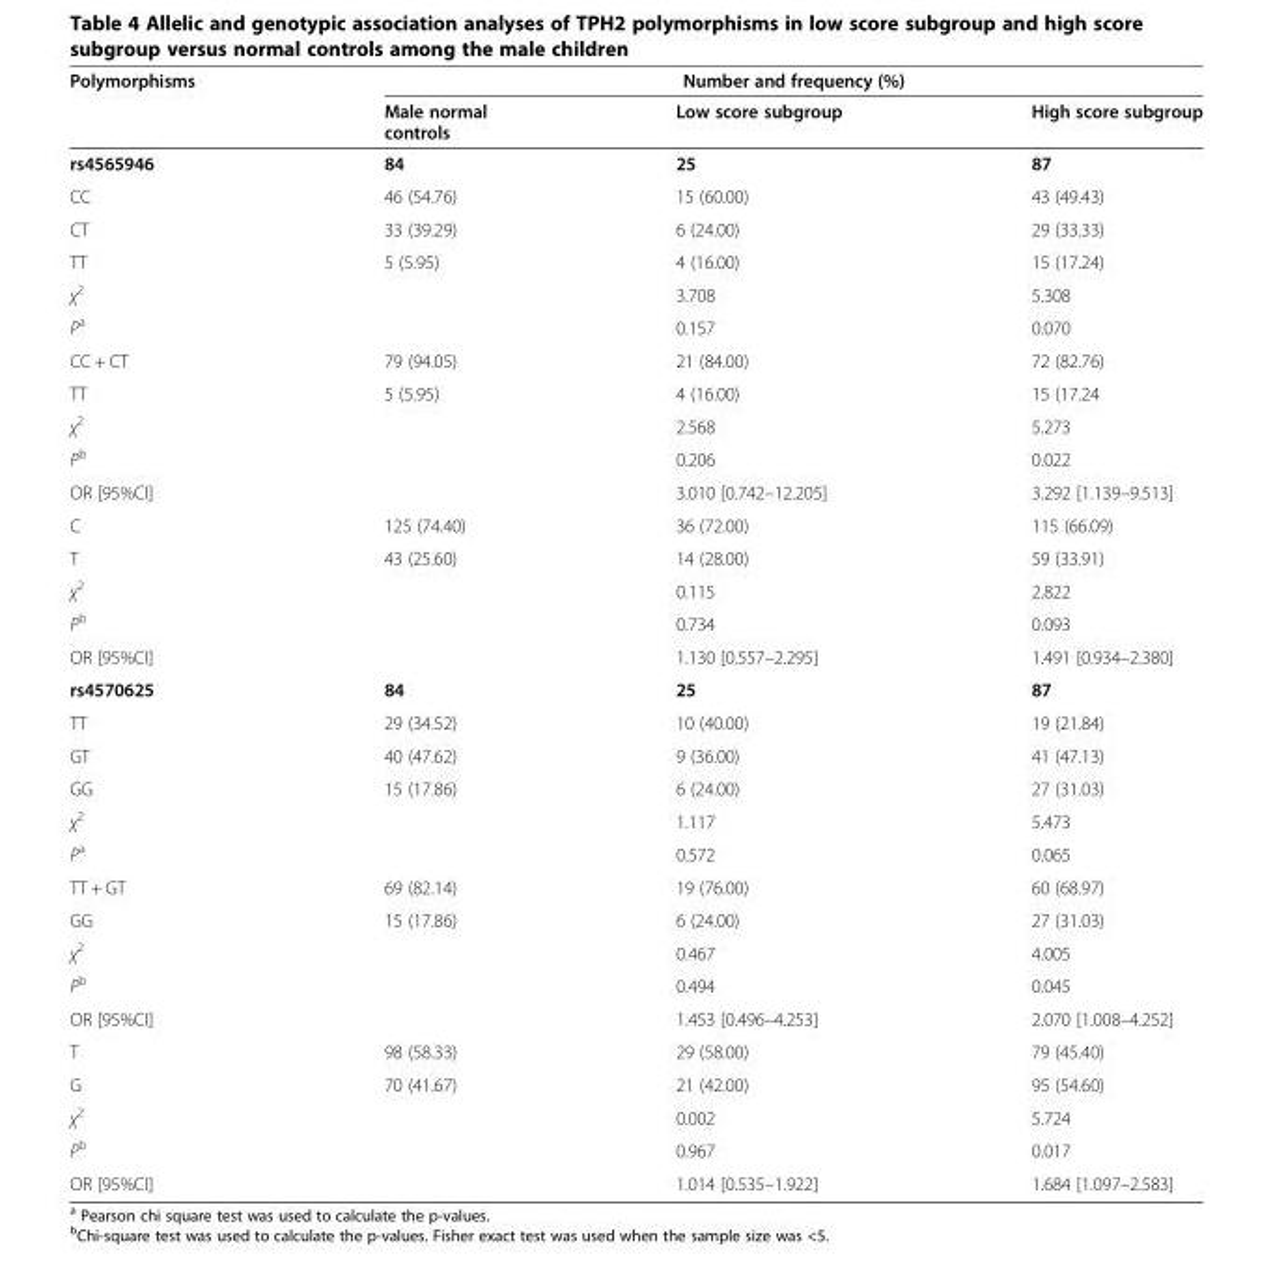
<table><thead><tr><td rowspan="2">Polymorphisms</td><td colspan="3">Number and frequency (%)</td></tr><tr><td>Male normal controls</td><td>Low score subgroup</td><td>High score subgroup</td></tr></thead><tbody><tr><td>rs4565946</td><td>84</td><td>25</td><td>87</td></tr><tr><td>CC</td><td>46 (54.76)</td><td>15 (60.00)</td><td>43 (49.43)</td></tr><tr><td>CT</td><td>33 (39.29)</td><td>6 (24.00)</td><td>29 (33.33)</td></tr><tr><td>TT</td><td>5 (5.95)</td><td>4 (16.00)</td><td>15 (17.24)</td></tr><tr><td>χ<sup>2</sup></td><td></td><td>3.708</td><td>5.308</td></tr><tr><td>P<sup>a</sup></td><td></td><td>0.157</td><td>0.070</td></tr><tr><td>CC + CT</td><td>79 (94.05)</td><td>21 (84.00)</td><td>72 (82.76)</td></tr><tr><td>TT</td><td>5 (5.95)</td><td>4 (16.00)</td><td>15 (17.24</td></tr><tr><td>χ<sup>2</sup></td><td></td><td>2.568</td><td>5.273</td></tr><tr><td>P<sup>b</sup></td><td></td><td>0.206</td><td>0.022</td></tr><tr><td>OR [95%CI]</td><td></td><td>3.010 [0.742–12.205]</td><td>3.292 [1.139–9.513]</td></tr><tr><td>C</td><td>125 (74.40)</td><td>36 (72.00)</td><td>115 (66.09)</td></tr><tr><td>T</td><td>43 (25.60)</td><td>14 (28.00)</td><td>59 (33.91)</td></tr><tr><td>χ<sup>2</sup></td><td></td><td>0.115</td><td>2.822</td></tr><tr><td>P<sup>b</sup></td><td></td><td>0.734</td><td>0.093</td></tr><tr><td>OR [95%CI]</td><td></td><td>1.130 [0.557–2.295]</td><td>1.491 [0.934–2.380]</td></tr><tr><td>rs4570625</td><td>84</td><td>25</td><td>87</td></tr><tr><td>TT</td><td>29 (34.52)</td><td>10 (40.00)</td><td>19 (21.84)</td></tr><tr><td>GT</td><td>40 (47.62)</td><td>9 (36.00)</td><td>41 (47.13)</td></tr><tr><td>GG</td><td>15 (17.86)</td><td>6 (24.00)</td><td>27 (31.03)</td></tr><tr><td>χ<sup>2</sup></td><td></td><td>1.117</td><td>5.473</td></tr><tr><td>P<sup>a</sup></td><td></td><td>0.572</td><td>0.065</td></tr><tr><td>TT + GT</td><td>69 (82.14)</td><td>19 (76.00)</td><td>60 (68.97)</td></tr><tr><td>GG</td><td>15 (17.86)</td><td>6 (24.00)</td><td>27 (31.03)</td></tr><tr><td>χ<sup>2</sup></td><td></td><td>0.467</td><td>4.005</td></tr><tr><td>P<sup>b</sup></td><td></td><td>0.494</td><td>0.045</td></tr><tr><td>OR [95%CI]</td><td></td><td>1.453 [0.496–4.253]</td><td>2.070 [1.008–4.252]</td></tr><tr><td>T</td><td>98 (58.33)</td><td>29 (58.00)</td><td>79 (45.40)</td></tr><tr><td>G</td><td>70 (41.67)</td><td>21 (42.00)</td><td>95 (54.60)</td></tr><tr><td>χ<sup>2</sup></td><td></td><td>0.002</td><td>5.724</td></tr><tr><td>P<sup>b</sup></td><td></td><td>0.967</td><td>0.017</td></tr><tr><td>OR [95%CI]</td><td></td><td>1.014 [0.535–1.922]</td><td>1.684 [1.097–2.583]</td></tr></tbody></table>